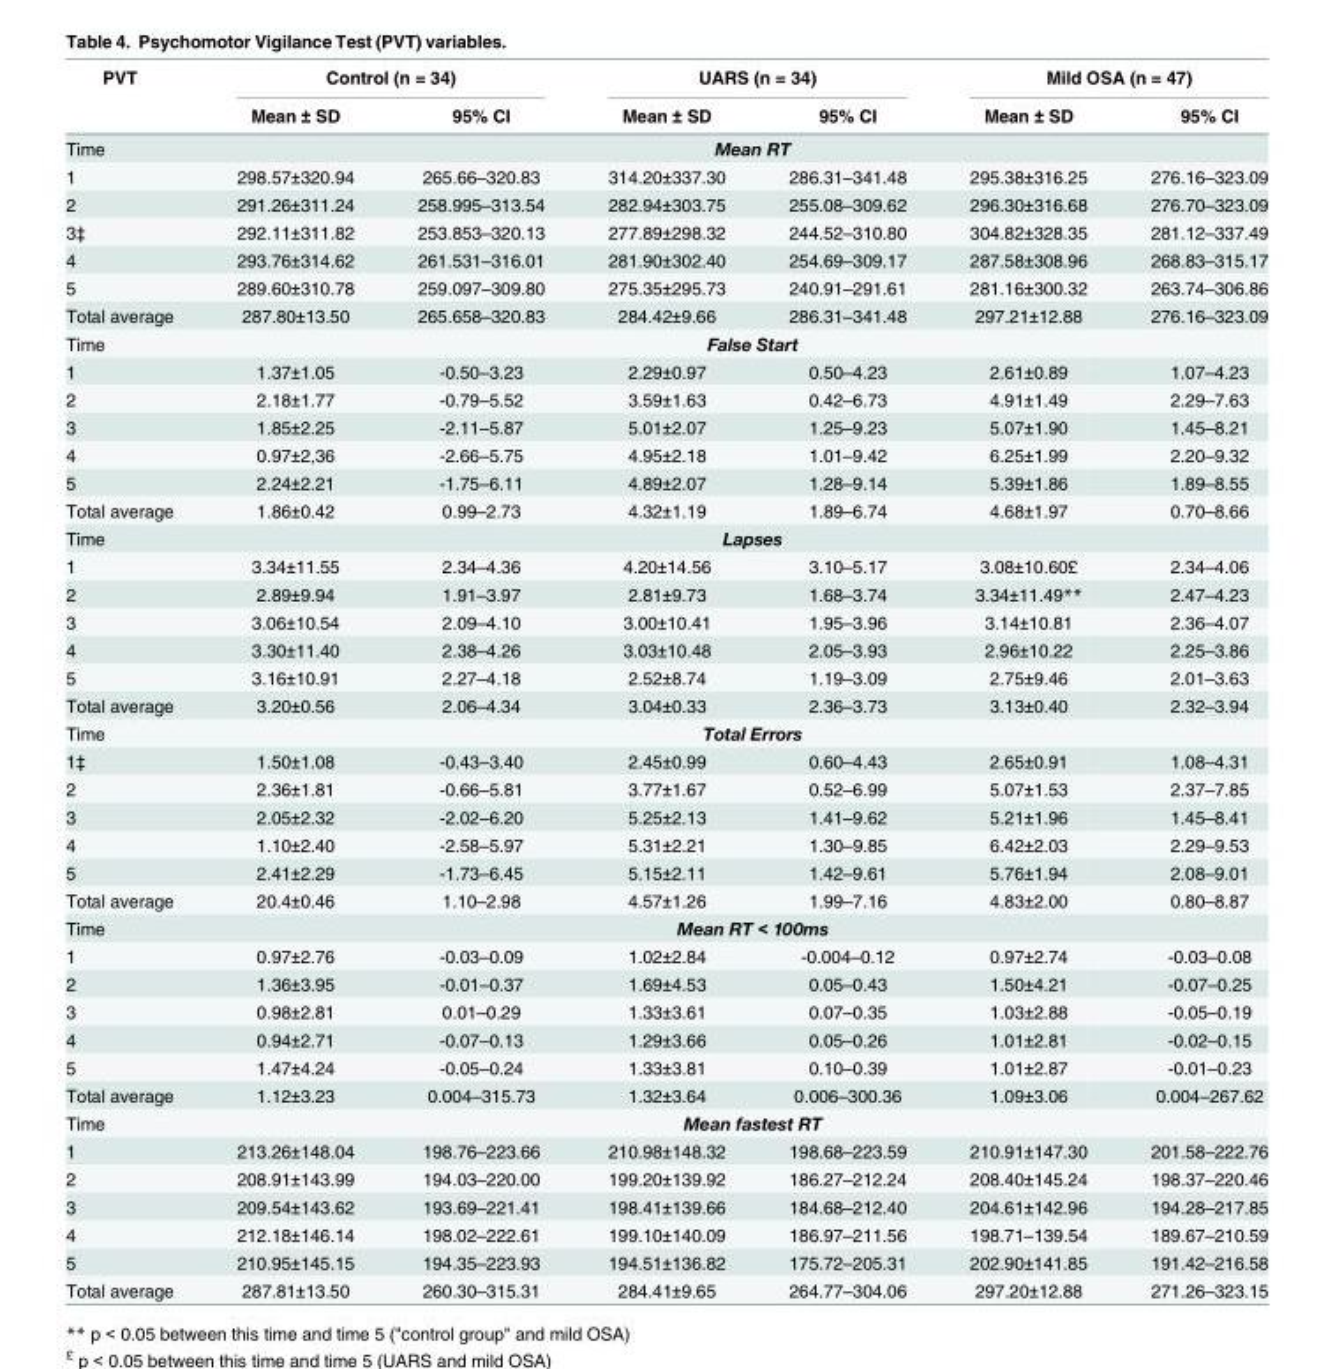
<table><thead><tr><td rowspan="2">PVT</td><td colspan="2">Control (n = 34)</td><td colspan="2">UARS (n = 34)</td><td colspan="2">Mild OSA (n = 47)</td></tr><tr><td>Mean ± SD</td><td>95% CI</td><td>Mean ± SD</td><td>95% CI</td><td>Mean ± SD</td><td>95% CI</td></tr></thead><tbody><tr><td>Time</td><td colspan="6">Mean RT</td></tr><tr><td>1</td><td>298.57±320.94</td><td>265.66–320.83</td><td>314.20±337.30</td><td>286.31–341.48</td><td>295.38±316.25</td><td>276.16–323.09</td></tr><tr><td>2</td><td>291.26±311.24</td><td>258.995–313.54</td><td>282.94±303.75</td><td>255.08–309.62</td><td>296.30±316.68</td><td>276.70–323.09</td></tr><tr><td>3‡</td><td>292.11±311.82</td><td>253.853–320.13</td><td>277.89±298.32</td><td>244.52–310.80</td><td>304.82±328.35</td><td>281.12–337.49</td></tr><tr><td>4</td><td>293.76±314.62</td><td>261.531–316.01</td><td>281.90±302.40</td><td>254.69–309.17</td><td>287.58±308.96</td><td>268.83–315.17</td></tr><tr><td>5</td><td>289.60±310.78</td><td>259.097–309.80</td><td>275.35±295.73</td><td>240.91–291.61</td><td>281.16±300.32</td><td>263.74–306.86</td></tr><tr><td>Total average</td><td>287.80±13.50</td><td>265.658–320.83</td><td>284.42±9.66</td><td>286.31–341.48</td><td>297.21±12.88</td><td>276.16–323.09</td></tr><tr><td>Time</td><td colspan="6">False Start</td></tr><tr><td>1</td><td>1.37±1.05</td><td>-0.50–3.23</td><td>2.29±0.97</td><td>0.50–4.23</td><td>2.61±0.89</td><td>1.07–4.23</td></tr><tr><td>2</td><td>2.18±1.77</td><td>-0.79–5.52</td><td>3.59±1.63</td><td>0.42–6.73</td><td>4.91±1.49</td><td>2.29–7.63</td></tr><tr><td>3</td><td>1.85±2.25</td><td>-2.11–5.87</td><td>5.01±2.07</td><td>1.25–9.23</td><td>5.07±1.90</td><td>1.45–8.21</td></tr><tr><td>4</td><td>0.97±2,36</td><td>-2.66–5.75</td><td>4.95±2.18</td><td>1.01–9.42</td><td>6.25±1.99</td><td>2.20–9.32</td></tr><tr><td>5</td><td>2.24±2.21</td><td>-1.75–6.11</td><td>4.89±2.07</td><td>1.28–9.14</td><td>5.39±1.86</td><td>1.89–8.55</td></tr><tr><td>Total average</td><td>1.86±0.42</td><td>0.99–2.73</td><td>4.32±1.19</td><td>1.89–6.74</td><td>4.68±1.97</td><td>0.70–8.66</td></tr><tr><td>Time</td><td colspan="6">Lapses</td></tr><tr><td>1</td><td>3.34±11.55</td><td>2.34–4.36</td><td>4.20±14.56</td><td>3.10–5.17</td><td>3.08±10.60£</td><td>2.34–4.06</td></tr><tr><td>2</td><td>2.89±9.94</td><td>1.91–3.97</td><td>2.81±9.73</td><td>1.68–3.74</td><td>3.34±11.49**</td><td>2.47–4.23</td></tr><tr><td>3</td><td>3.06±10.54</td><td>2.09–4.10</td><td>3.00±10.41</td><td>1.95–3.96</td><td>3.14±10.81</td><td>2.36–4.07</td></tr><tr><td>4</td><td>3.30±11.40</td><td>2.38–4.26</td><td>3.03±10.48</td><td>2.05–3.93</td><td>2.96±10.22</td><td>2.25–3.86</td></tr><tr><td>5</td><td>3.16±10.91</td><td>2.27–4.18</td><td>2.52±8.74</td><td>1.19–3.09</td><td>2.75±9.46</td><td>2.01–3.63</td></tr><tr><td>Total average</td><td>3.20±0.56</td><td>2.06–4.34</td><td>3.04±0.33</td><td>2.36–3.73</td><td>3.13±0.40</td><td>2.32–3.94</td></tr><tr><td>Time</td><td colspan="6">Total Errors</td></tr><tr><td>1‡</td><td>1.50±1.08</td><td>-0.43–3.40</td><td>2.45±0.99</td><td>0.60–4.43</td><td>2.65±0.91</td><td>1.08–4.31</td></tr><tr><td>2</td><td>2.36±1.81</td><td>-0.66–5.81</td><td>3.77±1.67</td><td>0.52–6.99</td><td>5.07±1.53</td><td>2.37–7.85</td></tr><tr><td>3</td><td>2.05±2.32</td><td>-2.02–6.20</td><td>5.25±2.13</td><td>1.41–9.62</td><td>5.21±1.96</td><td>1.45–8.41</td></tr><tr><td>4</td><td>1.10±2.40</td><td>-2.58–5.97</td><td>5.31±2.21</td><td>1.30–9.85</td><td>6.42±2.03</td><td>2.29–9.53</td></tr><tr><td>5</td><td>2.41±2.29</td><td>-1.73–6.45</td><td>5.15±2.11</td><td>1.42–9.61</td><td>5.76±1.94</td><td>2.08–9.01</td></tr><tr><td>Total average</td><td>20.4±0.46</td><td>1.10–2.98</td><td>4.57±1.26</td><td>1.99–7.16</td><td>4.83±2.00</td><td>0.80–8.87</td></tr><tr><td>Time</td><td colspan="6">Mean RT &lt; 100ms</td></tr><tr><td>1</td><td>0.97±2.76</td><td>-0.03–0.09</td><td>1.02±2.84</td><td>-0.004–0.12</td><td>0.97±2.74</td><td>-0.03–0.08</td></tr><tr><td>2</td><td>1.36±3.95</td><td>-0.01–0.37</td><td>1.69±4.53</td><td>0.05–0.43</td><td>1.50±4.21</td><td>-0.07–0.25</td></tr><tr><td>3</td><td>0.98±2.81</td><td>0.01–0.29</td><td>1.33±3.61</td><td>0.07–0.35</td><td>1.03±2.88</td><td>-0.05–0.19</td></tr><tr><td>4</td><td>0.94±2.71</td><td>-0.07–0.13</td><td>1.29±3.66</td><td>0.05–0.26</td><td>1.01±2.81</td><td>-0.02–0.15</td></tr><tr><td>5</td><td>1.47±4.24</td><td>-0.05–0.24</td><td>1.33±3.81</td><td>0.10–0.39</td><td>1.01±2.87</td><td>-0.01–0.23</td></tr><tr><td>Total average</td><td>1.12±3.23</td><td>0.004–315.73</td><td>1.32±3.64</td><td>0.006–300.36</td><td>1.09±3.06</td><td>0.004–267.62</td></tr><tr><td>Time</td><td colspan="6">Mean fastest RT</td></tr><tr><td>1</td><td>213.26±148.04</td><td>198.76–223.66</td><td>210.98±148.32</td><td>198.68–223.59</td><td>210.91±147.30</td><td>201.58–222.76</td></tr><tr><td>2</td><td>208.91±143.99</td><td>194.03–220.00</td><td>199.20±139.92</td><td>186.27–212.24</td><td>208.40±145.24</td><td>198.37–220.46</td></tr><tr><td>3</td><td>209.54±143.62</td><td>193.69–221.41</td><td>198.41±139.66</td><td>184.68–212.40</td><td>204.61±142.96</td><td>194.28–217.85</td></tr><tr><td>4</td><td>212.18±146.14</td><td>198.02–222.61</td><td>199.10±140.09</td><td>186.97–211.56</td><td>198.71–139.54</td><td>189.67–210.59</td></tr><tr><td>5</td><td>210.95±145.15</td><td>194.35–223.93</td><td>194.51±136.82</td><td>175.72–205.31</td><td>202.90±141.85</td><td>191.42–216.58</td></tr><tr><td>Total average</td><td>287.81±13.50</td><td>260.30–315.31</td><td>284.41±9.65</td><td>264.77–304.06</td><td>297.20±12.88</td><td>271.26–323.15</td></tr></tbody></table>